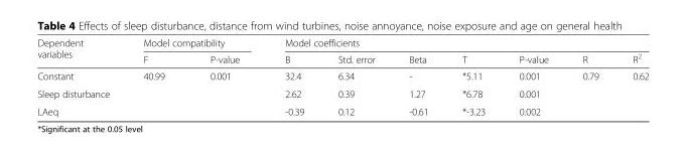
<table><thead><tr><td rowspan="2">Dependent variables</td><td colspan="2">Model compatibility</td><td colspan="7">Model coefficients</td></tr><tr><td>F</td><td>P-value</td><td>B</td><td>Std. error</td><td>Beta</td><td>T</td><td>P-value</td><td>R</td><td>R<sup>2</sup></td></tr></thead><tbody><tr><td>Constant</td><td rowspan="3">40.99</td><td rowspan="3">0.001</td><td>32.4</td><td>6.34</td><td>-</td><td>*5.11</td><td>0.001</td><td rowspan="3">0.79</td><td rowspan="3">0.62</td></tr><tr><td>Sleep disturbance</td><td>2.62</td><td>0.39</td><td>1.27</td><td>*6.78</td><td>0.001</td></tr><tr><td>LAeq</td><td>-0.39</td><td>0.12</td><td>-0.61</td><td>*-3.23</td><td>0.002</td></tr></tbody></table>